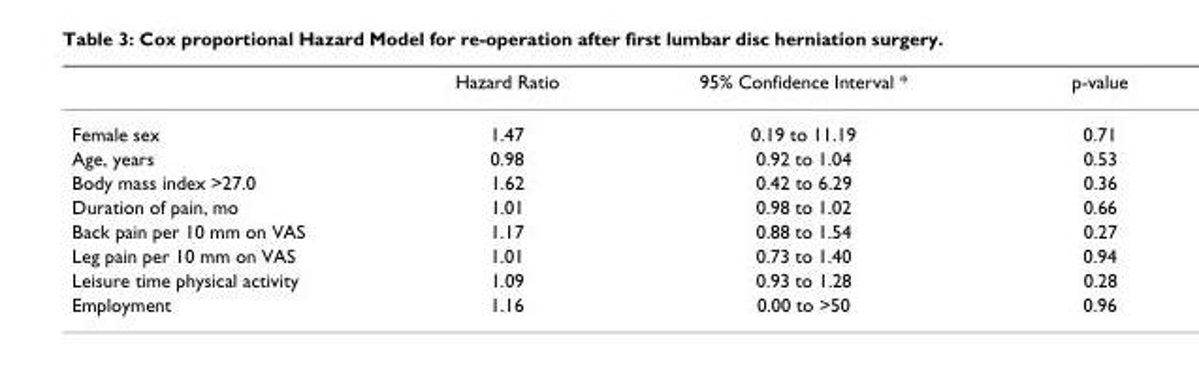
<table><thead><tr><td></td><td>Hazard Ratio</td><td>95% Confidence Interval *</td><td>p-value</td></tr></thead><tbody><tr><td>Female sex</td><td>1.47</td><td>0.19 to 11.19</td><td>0.71</td></tr><tr><td>Age, years</td><td>0.98</td><td>0.92 to 1.04</td><td>0.53</td></tr><tr><td>Body mass index &gt;27.0</td><td>1.62</td><td>0.42 to 6.29</td><td>0.36</td></tr><tr><td>Duration of pain, mo</td><td>1.01</td><td>0.98 to 1.02</td><td>0.66</td></tr><tr><td>Back pain per 10 mm on VAS</td><td>1.17</td><td>0.88 to 1.54</td><td>0.27</td></tr><tr><td>Leg pain per 10 mm on VAS</td><td>1.01</td><td>0.73 to 1.40</td><td>0.94</td></tr><tr><td>Leisure time physical activity</td><td>1.09</td><td>0.93 to 1.28</td><td>0.28</td></tr><tr><td>Employment</td><td>1.16</td><td>0.00 to &gt;50</td><td>0.96</td></tr></tbody></table>